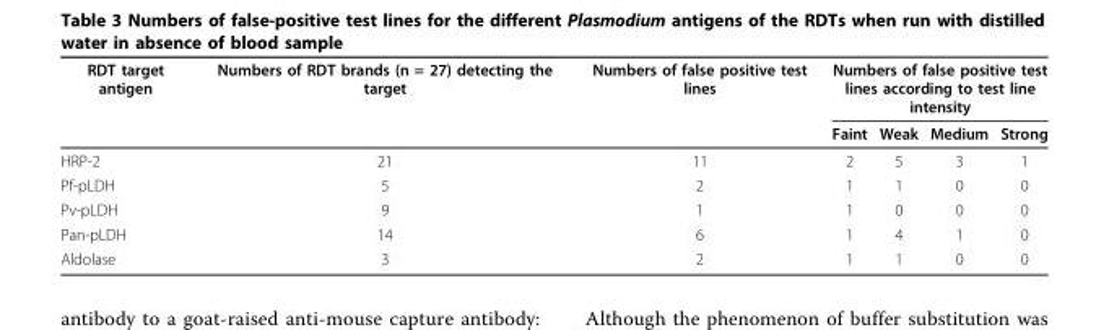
<table><thead><tr><td rowspan="2">RDT target antigen</td><td rowspan="2">Numbers of RDT brands (n = 27) detecting the target</td><td rowspan="2">Numbers of false positive test lines</td><td colspan="4">Numbers of false positive test lines according to test line intensity</td></tr><tr><td>Faint</td><td>Weak</td><td>Medium</td><td>Strong</td></tr></thead><tbody><tr><td>HRP-2</td><td>21</td><td>11</td><td>2</td><td>5</td><td>3</td><td>1</td></tr><tr><td>Pf-pLDH</td><td>5</td><td>2</td><td>1</td><td>1</td><td>0</td><td>0</td></tr><tr><td>Pv-pLDH</td><td>9</td><td>1</td><td>1</td><td>0</td><td>0</td><td>0</td></tr><tr><td>Pan-pLDH</td><td>14</td><td>6</td><td>1</td><td>4</td><td>1</td><td>0</td></tr><tr><td>Aldolase</td><td>3</td><td>2</td><td>1</td><td>1</td><td>0</td><td>0</td></tr></tbody></table>